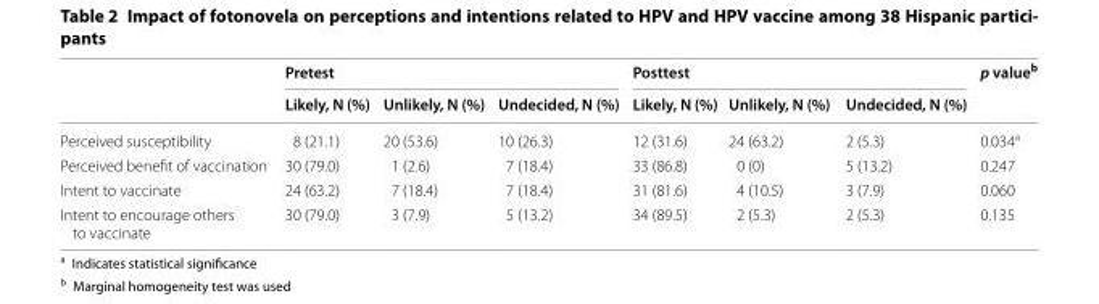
<table><thead><tr><td rowspan="2"></td><td colspan="3">Pretest</td><td colspan="3">Posttest</td><td rowspan="2">p value<sup>b</sup></td></tr><tr><td>Likely, N (%)</td><td>Unlikely, N (%)</td><td>Undecided, N (%)</td><td>Likely, N (%)</td><td>Unlikely, N (%)</td><td>Undecided, N (%)</td></tr></thead><tbody><tr><td>Perceived susceptibility</td><td>8 (21.1)</td><td>20 (53.6)</td><td>10 (26.3)</td><td>12 (31.6)</td><td>24 (63.2)</td><td>2 (5.3)</td><td>0.034<sup>a</sup></td></tr><tr><td>Perceived benefit of vaccination</td><td>30 (79.0)</td><td>1 (2.6)</td><td>7 (18.4)</td><td>33 (86.8)</td><td>0 (0)</td><td>5 (13.2)</td><td>0.247</td></tr><tr><td>Intent to vaccinate</td><td>24 (63.2)</td><td>7 (18.4)</td><td>7 (18.4)</td><td>31 (81.6)</td><td>4 (10.5)</td><td>3 (7.9)</td><td>0.060</td></tr><tr><td>Intent to encourage others to vaccinate</td><td>30 (79.0)</td><td>3 (7.9)</td><td>5 (13.2)</td><td>34 (89.5)</td><td>2 (5.3)</td><td>2 (5.3)</td><td>0.135</td></tr></tbody></table>